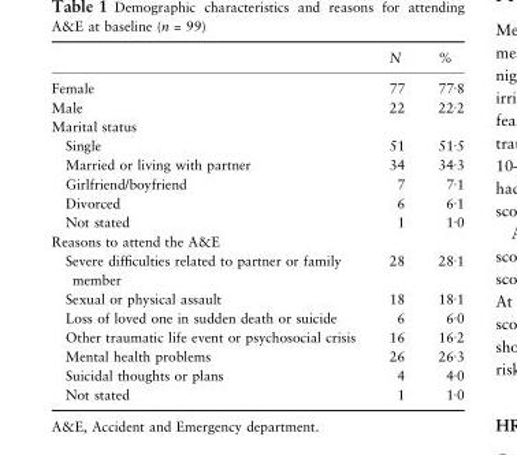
<table><thead><tr><td></td><td>N</td><td>%</td></tr></thead><tbody><tr><td>Female</td><td>77</td><td>77Æ8</td></tr><tr><td>Male</td><td>22</td><td>22Æ2</td></tr><tr><td colspan="3">Marital status</td></tr><tr><td>Single</td><td>51</td><td>51Æ5</td></tr><tr><td>Married or living with partner</td><td>34</td><td>34Æ3</td></tr><tr><td>Girlfriend/boyfriend</td><td>7</td><td>7Æ1</td></tr><tr><td>Divorced</td><td>6</td><td>6Æ1</td></tr><tr><td>Not stated</td><td>1</td><td>1Æ0</td></tr><tr><td colspan="3">Reasons to attend the A&amp;E</td></tr><tr><td>Severe difficulties related to partner or family member</td><td>28</td><td>28Æ1</td></tr><tr><td>Sexual or physical assault</td><td>18</td><td>18Æ1</td></tr><tr><td>Loss of loved one in sudden death or suicide</td><td>6</td><td>6Æ0</td></tr><tr><td>Other traumatic life event or psychosocial crisis</td><td>16</td><td>16Æ2</td></tr><tr><td>Mental health problems</td><td>26</td><td>26Æ3</td></tr><tr><td>Suicidal thoughts or plans</td><td>4</td><td>4Æ0</td></tr><tr><td>Not stated</td><td>1</td><td>1Æ0</td></tr></tbody></table>